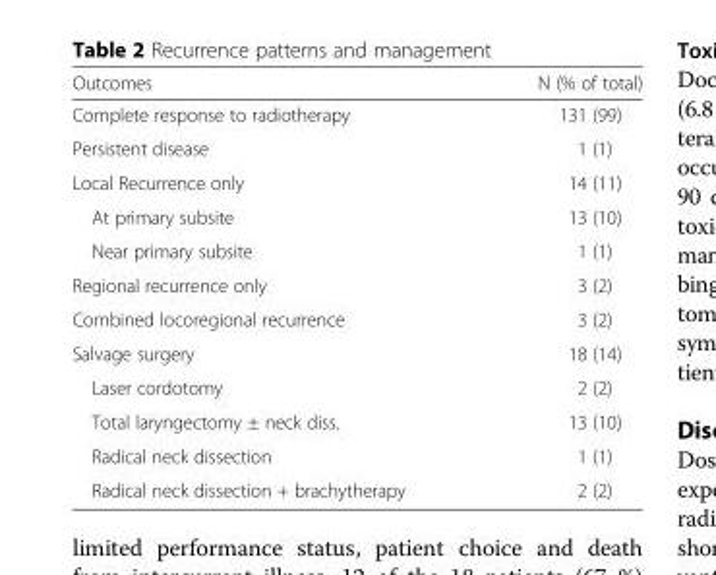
<table><thead><tr><td>Outcomes</td><td>N (% of total)</td></tr></thead><tbody><tr><td>Complete response to radiotherapy</td><td>131 (99)</td></tr><tr><td>Persistent disease</td><td>1 (1)</td></tr><tr><td>Local Recurrence only</td><td>14 (11)</td></tr><tr><td>At primary subsite</td><td>13 (10)</td></tr><tr><td>Near primary subsite</td><td>1 (1)</td></tr><tr><td>Regional recurrence only</td><td>3 (2)</td></tr><tr><td>Combined locoregional recurrence</td><td>3 (2)</td></tr><tr><td>Salvage surgery</td><td>18 (14)</td></tr><tr><td>Laser cordotomy</td><td>2 (2)</td></tr><tr><td>Total laryngectomy ± neck diss.</td><td>13 (10)</td></tr><tr><td>Radical neck dissection</td><td>1 (1)</td></tr><tr><td>Radical neck dissection + brachytherapy</td><td>2 (2)</td></tr></tbody></table>